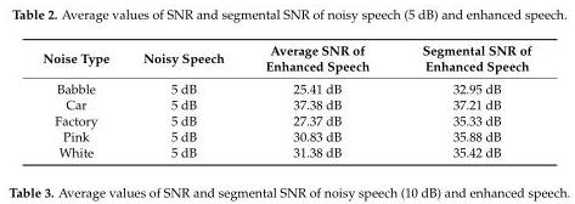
<table><thead><tr><td>Noise Type</td><td>Noisy Speech</td><td>Average SNR of Enhanced Speech</td><td>Segmental SNR of Enhanced Speech</td></tr></thead><tbody><tr><td>Babble</td><td>5 dB</td><td>25.41 dB</td><td>32.95 dB</td></tr><tr><td>Car</td><td>5 dB</td><td>37.38 dB</td><td>37.21 dB</td></tr><tr><td>Factory</td><td>5 dB</td><td>27.37 dB</td><td>35.33 dB</td></tr><tr><td>Pink</td><td>5 dB</td><td>30.83 dB</td><td>35.88 dB</td></tr><tr><td>White</td><td>5 dB</td><td>31.38 dB</td><td>35.42 dB</td></tr></tbody></table>